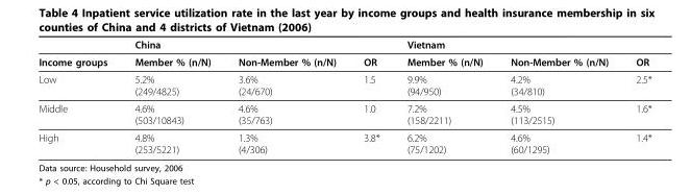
<table><thead><tr><td></td><td>China</td><td></td><td></td><td>Vietnam</td><td></td><td></td></tr></thead><tbody><tr><td>Income groups</td><td>Member % (n/N)</td><td>Non-Member % (n/N)</td><td>OR</td><td>Member % (n/N)</td><td>Non-Member % (n/N)</td><td>OR</td></tr><tr><td>Low</td><td>5.2% (249/4825)</td><td>3.6% (24/670)</td><td>1.5</td><td>9.9% (94/950)</td><td>4.2% (34/810)</td><td>2.5*</td></tr><tr><td>Middle</td><td>4.6% (503/10843)</td><td>4.6% (35/763)</td><td>1.0</td><td>7.2% (158/2211)</td><td>4.5% (113/2515)</td><td>1.6*</td></tr><tr><td>High</td><td>4.8% (253/5221)</td><td>1.3% (4/306)</td><td>3.8*</td><td>6.2% (75/1202)</td><td>4.6% (60/1295)</td><td>1.4*</td></tr></tbody></table>